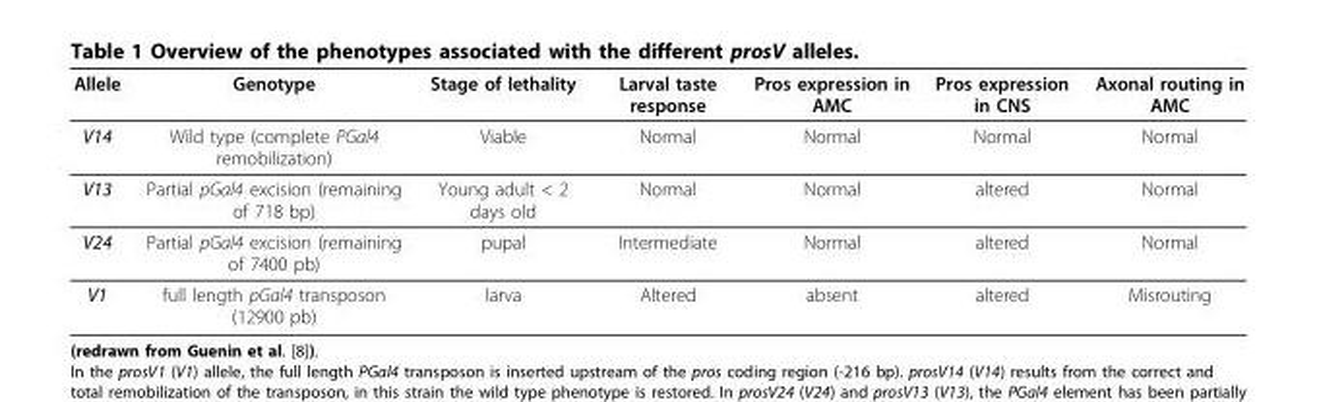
<table><thead><tr><td>Allele</td><td>Genotype</td><td>Stage of lethality</td><td>Larval taste response</td><td>Pros expression in AMC</td><td>Pros expression in CNS</td><td>Axonal routing in AMC</td></tr></thead><tbody><tr><td>V14</td><td>Wild type (complete PGal4 remobilization)</td><td>Viable</td><td>Normal</td><td>Normal</td><td>Normal</td><td>Normal</td></tr><tr><td>V13</td><td>Partial pGal4 excision (remaining of 718 bp)</td><td>Young adult &lt; 2 days old</td><td>Normal</td><td>Normal</td><td>altered</td><td>Normal</td></tr><tr><td>V24</td><td>Partial pGal4 excision (remaining of 7400 pb)</td><td>pupal</td><td>Intermediate</td><td>Normal</td><td>altered</td><td>Normal</td></tr><tr><td>V1</td><td>full length pGal4 transposon (12900 pb)</td><td>larva</td><td>Altered</td><td>absent</td><td>altered</td><td>Misrouting</td></tr></tbody></table>